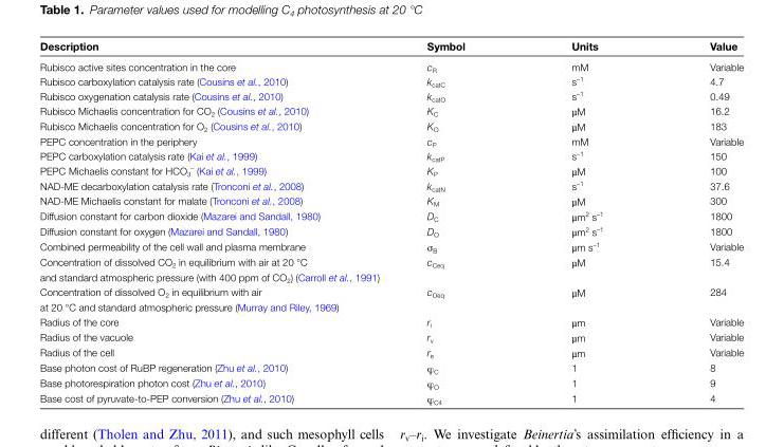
<table><thead><tr><td>Description</td><td>Symbol</td><td>Units</td><td>Value</td></tr></thead><tbody><tr><td>Rubisco active sites concentration in the core</td><td>c<sub>R</sub></td><td>mM</td><td>Variable</td></tr><tr><td>Rubisco carboxylation catalysis rate (Cousins et al., 2010)</td><td>k<sub>catC</sub></td><td>s<sup>–1</sup></td><td>4.7</td></tr><tr><td>Rubisco oxygenation catalysis rate (Cousins et al., 2010)</td><td>k<sub>catO</sub></td><td>s<sup>–1</sup></td><td>0.49</td></tr><tr><td>Rubisco Michaelis concentration for CO<sub>2</sub> (Cousins et al., 2010)</td><td>K<sub>C</sub></td><td>µM</td><td>16.2</td></tr><tr><td>Rubisco Michaelis concentration for O<sub>2</sub> (Cousins et al., 2010)</td><td>K<sub>O</sub></td><td>µM</td><td>183</td></tr><tr><td>PEPC concentration in the periphery</td><td>c<sub>P</sub></td><td>mM</td><td>Variable</td></tr><tr><td>PEPC carboxylation catalysis rate (Kai et al., 1999)</td><td>k<sub>catP</sub></td><td>s<sup>–1</sup></td><td>150</td></tr><tr><td>PEPC Michaelis constant for HCO<sub>3</sub> <sup>–</sup> (Kai et al., 1999)</td><td>K<sub>P</sub></td><td>µM</td><td>100</td></tr><tr><td>NAD-ME decarboxylation catalysis rate (Tronconi et al., 2008)</td><td>k<sub>catN</sub></td><td>s<sup>–1</sup></td><td>37.6</td></tr><tr><td>NAD-ME Michaelis constant for malate (Tronconi et al., 2008)</td><td>K<sub>M</sub></td><td>µM</td><td>300</td></tr><tr><td>Diffusion constant for carbon dioxide (Mazarei and Sandall, 1980)</td><td>D<sub>C</sub></td><td>µm<sup>2</sup> s<sup>–1</sup></td><td>1800</td></tr><tr><td>Diffusion constant for oxygen (Mazarei and Sandall, 1980)</td><td>D<sub>O</sub></td><td>µm<sup>2</sup> s<sup>–1</sup></td><td>1800</td></tr><tr><td>Combined permeability of the cell wall and plasma membrane</td><td>σ<sub>B</sub></td><td>µm s<sup>–1</sup></td><td>Variable</td></tr><tr><td>Concentration of dissolved CO<sub>2</sub> in equilibrium with air at 20 °C</td><td>c<sub>Ceq</sub></td><td>µM</td><td>15.4</td></tr><tr><td colspan="4">and standard atmospheric pressure (with 400 ppm of CO<sub>2</sub>) (Carroll et al., 1991)</td></tr><tr><td>Concentration of dissolved O<sub>2</sub> in equilibrium with air</td><td>c<sub>Oeq</sub></td><td>µM</td><td>284</td></tr><tr><td colspan="4">at 20 °C and standard atmospheric pressure (Murray and Riley, 1969)</td></tr><tr><td>Radius of the core</td><td>r<sub>i</sub></td><td>µm</td><td>Variable</td></tr><tr><td>Radius of the vacuole</td><td>r<sub>v</sub></td><td>µm</td><td>Variable</td></tr><tr><td>Radius of the cell</td><td>r<sub>e</sub></td><td>µm</td><td>Variable</td></tr><tr><td>Base photon cost of RuBP regeneration (Zhu et al., 2010)</td><td>φ<sub>C</sub></td><td>1</td><td>8</td></tr><tr><td>Base photorespiration photon cost (Zhu et al., 2010)</td><td>φ<sub>O</sub></td><td>1</td><td>9</td></tr><tr><td>Base cost of pyruvate-to-PEP conversion (Zhu et al., 2010)</td><td>φ<sub>C4</sub></td><td>1</td><td>4</td></tr></tbody></table>